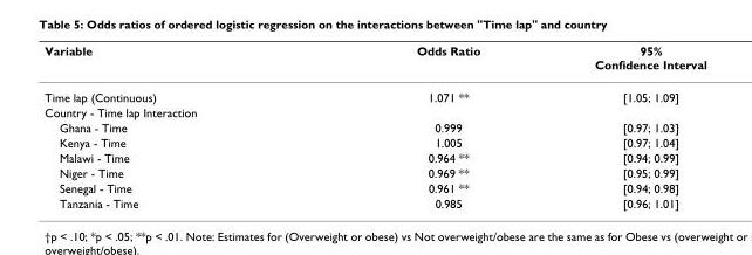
<table><thead><tr><td>Variable</td><td>Odds Ratio</td><td>95% Confidence Interval</td></tr></thead><tbody><tr><td>Time lap (Continuous)</td><td>1.071 **</td><td>[1.05; 1.09]</td></tr><tr><td colspan="3">Country - Time lap Interaction</td></tr><tr><td>Ghana - Time</td><td>0.999</td><td>[0.97; 1.03]</td></tr><tr><td>Kenya - Time</td><td>1.005</td><td>[0.97; 1.04]</td></tr><tr><td>Malawi - Time</td><td>0.964 **</td><td>[0.94; 0.99]</td></tr><tr><td>Niger - Time</td><td>0.969 **</td><td>[0.95; 0.99]</td></tr><tr><td>Senegal - Time</td><td>0.961 **</td><td>[0.94; 0.98]</td></tr><tr><td>Tanzania - Time</td><td>0.985</td><td>[0.96; 1.01]</td></tr></tbody></table>